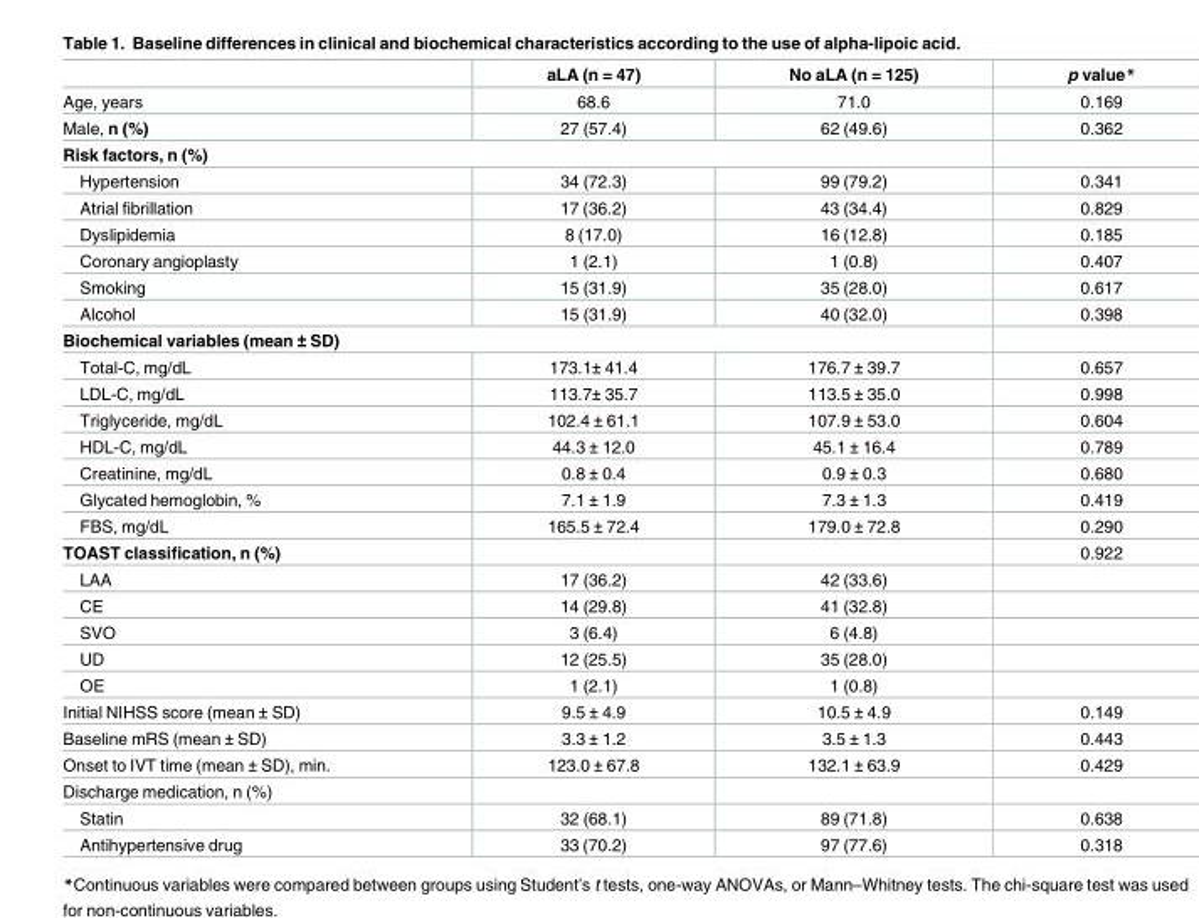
<table><thead><tr><td></td><td>aLA (n = 47)</td><td>No aLA (n = 125)</td><td>p value*</td></tr></thead><tbody><tr><td>Age, years</td><td>68.6</td><td>71.0</td><td>0.169</td></tr><tr><td>Male, n (%)</td><td>27 (57.4)</td><td>62 (49.6)</td><td>0.362</td></tr><tr><td colspan="4">Risk factors, n (%)</td></tr><tr><td>Hypertension</td><td>34 (72.3)</td><td>99 (79.2)</td><td>0.341</td></tr><tr><td>Atrial fibrillation</td><td>17 (36.2)</td><td>43 (34.4)</td><td>0.829</td></tr><tr><td>Dyslipidemia</td><td>8 (17.0)</td><td>16 (12.8)</td><td>0.185</td></tr><tr><td>Coronary angioplasty</td><td>1 (2.1)</td><td>1 (0.8)</td><td>0.407</td></tr><tr><td>Smoking</td><td>15 (31.9)</td><td>35 (28.0)</td><td>0.617</td></tr><tr><td>Alcohol</td><td>15 (31.9)</td><td>40 (32.0)</td><td>0.398</td></tr><tr><td colspan="4">Biochemical variables (mean ± SD)</td></tr><tr><td>Total-C, mg/dL</td><td>173.1± 41.4</td><td>176.7 ± 39.7</td><td>0.657</td></tr><tr><td>LDL-C, mg/dL</td><td>113.7± 35.7</td><td>113.5 ± 35.0</td><td>0.998</td></tr><tr><td>Triglyceride, mg/dL</td><td>102.4 ± 61.1</td><td>107.9 ± 53.0</td><td>0.604</td></tr><tr><td>HDL-C, mg/dL</td><td>44.3 ± 12.0</td><td>45.1 ± 16.4</td><td>0.789</td></tr><tr><td>Creatinine, mg/dL</td><td>0.8 ± 0.4</td><td>0.9 ± 0.3</td><td>0.680</td></tr><tr><td>Glycated hemoglobin, %</td><td>7.1 ± 1.9</td><td>7.3 ± 1.3</td><td>0.419</td></tr><tr><td>FBS, mg/dL</td><td>165.5 ± 72.4</td><td>179.0 ± 72.8</td><td>0.290</td></tr><tr><td>TOAST classification, n (%)</td><td></td><td></td><td>0.922</td></tr><tr><td>LAA</td><td>17 (36.2)</td><td>42 (33.6)</td><td></td></tr><tr><td>CE</td><td>14 (29.8)</td><td>41 (32.8)</td><td></td></tr><tr><td>SVO</td><td>3 (6.4)</td><td>6 (4.8)</td><td></td></tr><tr><td>UD</td><td>12 (25.5)</td><td>35 (28.0)</td><td></td></tr><tr><td>OE</td><td>1 (2.1)</td><td>1 (0.8)</td><td></td></tr><tr><td>Initial NIHSS score (mean ± SD)</td><td>9.5 ± 4.9</td><td>10.5 ± 4.9</td><td>0.149</td></tr><tr><td>Baseline mRS (mean ± SD)</td><td>3.3 ± 1.2</td><td>3.5 ± 1.3</td><td>0.443</td></tr><tr><td>Onset to IVT time (mean ± SD), min.</td><td>123.0 ± 67.8</td><td>132.1 ± 63.9</td><td>0.429</td></tr><tr><td colspan="4">Discharge medication, n (%)</td></tr><tr><td>Statin</td><td>32 (68.1)</td><td>89 (71.8)</td><td>0.638</td></tr><tr><td>Antihypertensive drug</td><td>33 (70.2)</td><td>97 (77.6)</td><td>0.318</td></tr></tbody></table>